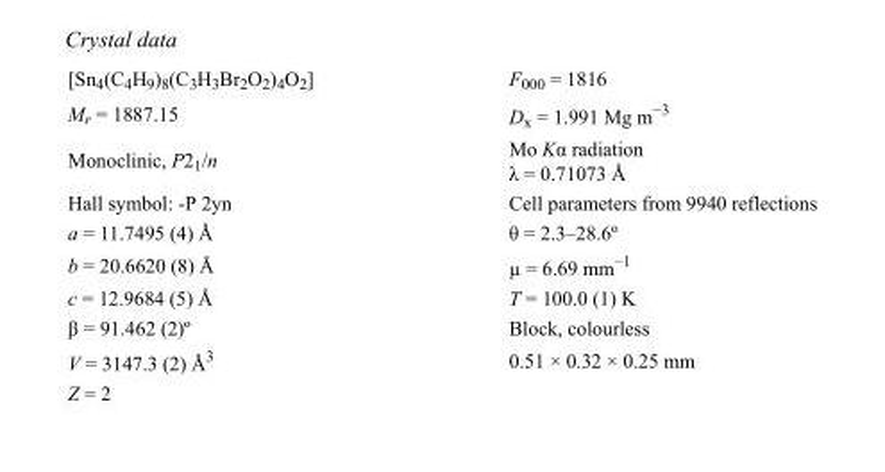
<table><tbody><tr><td>[Sn<sub>4</sub>(C<sub>4</sub>H<sub>9</sub>)<sub>8</sub>(C<sub>3</sub>H<sub>3</sub>Br<sub>2</sub>O<sub>2</sub>)<sub>4</sub>O<sub>2</sub>]</td><td>F<sub>000</sub> = 1816</td></tr><tr><td>M<sub>r</sub> = 1887.15</td><td>D<sub>x</sub> = 1.991 Mg m<sup>−3</sup></td></tr><tr><td>Monoclinic, P2<sub>1</sub>/n</td><td>Mo Kα radiation λ = 0.71073 Å</td></tr><tr><td>Hall symbol: -P 2yn</td><td>Cell parameters from 9940 reflections</td></tr><tr><td>a = 11.7495 (4) Å</td><td>θ = 2.3–28.6º</td></tr><tr><td>b = 20.6620 (8) Å</td><td>µ = 6.69 mm<sup>−1</sup></td></tr><tr><td>c = 12.9684 (5) Å</td><td>T = 100.0 (1) K</td></tr><tr><td>β = 91.462 (2)º</td><td>Block, colourless</td></tr><tr><td>V = 3147.3 (2) Å<sup>3</sup></td><td>0.51 × 0.32 × 0.25 mm</td></tr><tr><td>Z = 2</td><td></td></tr></tbody></table>